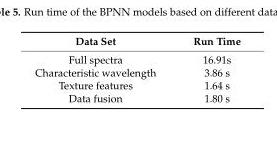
<table><thead><tr><td>Data Set</td><td>Run Time</td></tr></thead><tbody><tr><td>Full spectra</td><td>16.91s</td></tr><tr><td>Characteristic wavelength</td><td>3.86 s</td></tr><tr><td>Texture features</td><td>1.64 s</td></tr><tr><td>Data fusion</td><td>1.80 s</td></tr></tbody></table>